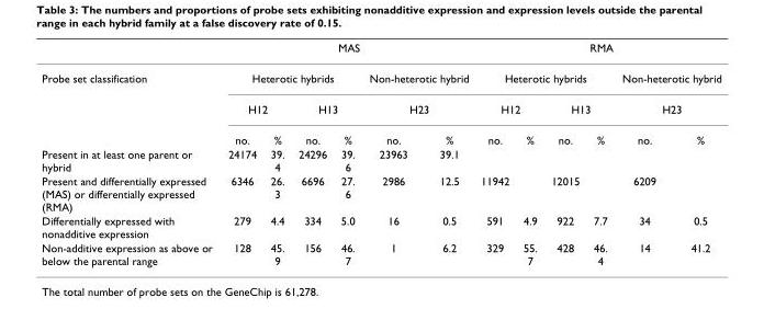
<table><thead><tr><td rowspan="4">Probe set classification</td><td colspan="6">MAS</td><td colspan="6">RMA</td></tr><tr><td colspan="4">Heterotic hybrids</td><td rowspan="2" colspan="2">Non-heterotic hybrid H23</td><td colspan="4">Heterotic hybrids</td><td rowspan="2" colspan="2">Non-heterotic hybrid H23</td></tr><tr><td colspan="2">H12</td><td colspan="2">H13</td><td colspan="2">H12</td><td colspan="2">H13</td></tr><tr><td>no.</td><td>%</td><td>no.</td><td>%</td><td>no.</td><td>%</td><td>no.</td><td>%</td><td>no.</td><td>%</td><td>no.</td><td>%</td></tr></thead><tbody><tr><td>Present in at least one parent or hybrid</td><td>24174</td><td>39. 4</td><td>24296</td><td>39. 6</td><td>23963</td><td>39.1</td><td></td><td></td><td></td><td></td><td></td><td></td></tr><tr><td>Present and differentially expressed (MAS) or differentially expressed (RMA)</td><td>6346</td><td>26. 3</td><td>6696</td><td>27. 6</td><td>2986</td><td>12.5</td><td>11942</td><td></td><td>12015</td><td></td><td>6209</td><td></td></tr><tr><td>Differentially expressed with nonadditive expression</td><td>279</td><td>4.4</td><td>334</td><td>5.0</td><td>16</td><td>0.5</td><td>591</td><td>4.9</td><td>922</td><td>7.7</td><td>34</td><td>0.5</td></tr><tr><td>Non-additive expression as above or below the parental range</td><td>128</td><td>45. 9</td><td>156</td><td>46. 7</td><td>1</td><td>6.2</td><td>329</td><td>55. 7</td><td>428</td><td>46. 4</td><td>14</td><td>41.2</td></tr></tbody></table>